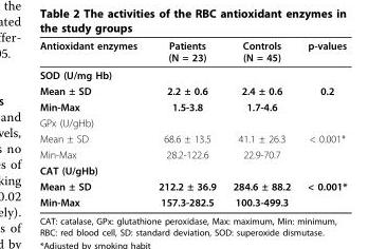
<table><thead><tr><td>Antioxidant enzymes</td><td>Patients (N = 23)</td><td>Controls (N = 45)</td><td>p-values</td></tr></thead><tbody><tr><td colspan="4">SOD (U/mg Hb)</td></tr><tr><td>Mean ± SD</td><td>2.2 ± 0.6</td><td>2.4 ± 0.6</td><td>0.2</td></tr><tr><td>Min-Max</td><td>1.5-3.8</td><td>1.7-4.6</td><td></td></tr><tr><td colspan="4">GPx (U/gHb)</td></tr><tr><td>Mean ± SD</td><td>68.6 ± 13.5</td><td>41.1 ± 26.3</td><td>&lt; 0.001*</td></tr><tr><td>Min-Max</td><td>28.2-122.6</td><td>22.9-70.7</td><td></td></tr><tr><td colspan="4">CAT (U/gHb)</td></tr><tr><td>Mean ± SD</td><td>212.2 ± 36.9</td><td>284.6 ± 88.2</td><td>&lt; 0.001*</td></tr><tr><td>Min-Max</td><td>157.3-282.5</td><td>100.3-499.3</td><td></td></tr></tbody></table>